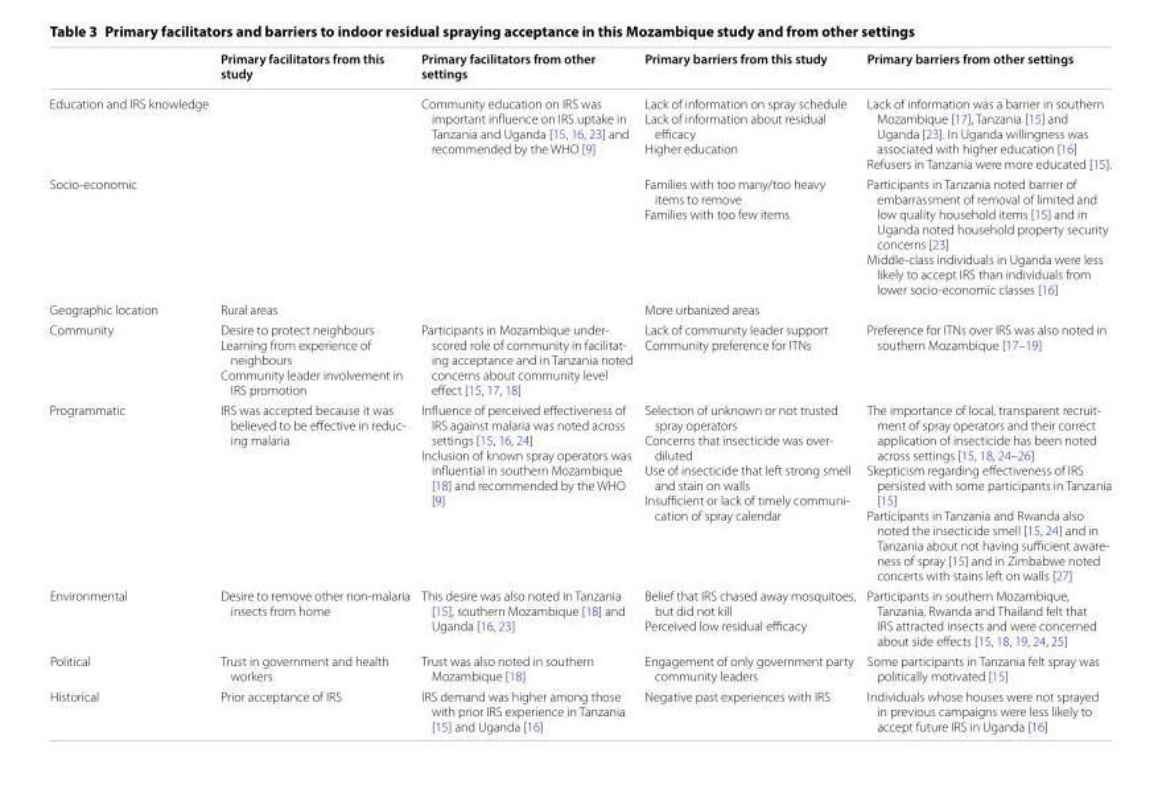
<table><thead><tr><td></td><td>Primary facilitators from this study</td><td>Primary facilitators from other settings</td><td>Primary barriers from this study</td><td>Primary barriers from other settings</td></tr></thead><tbody><tr><td>Education and IRS knowledge</td><td></td><td>Community education on IRS was important influence on IRS uptake in Tanzania and Uganda [15, 16, 23] and recommended by the WHO [9]</td><td>Lack of information on spray schedule Lack of information about residual efficacy Higher education</td><td>Lack of information was a barrier in southern Mozambique [17], Tanzania [15] and Uganda [23]. In Uganda willingness was associated with higher education [16] Refusers in Tanzania were more educated [15].</td></tr><tr><td>Socio-economic</td><td></td><td></td><td>Families with too many/too heavy items to remove Families with too few items</td><td>Participants in Tanzania noted barrier of embarrassment of removal of limited and low quality household items [15] and in Uganda noted household property security concerns [23] Middle-class individuals in Uganda were less likely to accept IRS than individuals from lower socio-economic classes [16]</td></tr><tr><td>Geographic location</td><td>Rural areas</td><td></td><td>More urbanized areas</td><td></td></tr><tr><td>Community</td><td>Desire to protect neighbours Learning from experience of neighbours Community leader involvement in IRS promotion</td><td>Participants in Mozambique under- scored role of community in facilitat- ing acceptance and in Tanzania noted concerns about community level effect [15, 17, 18]</td><td>Lack of community leader support Community preference for ITNs</td><td>Preference for ITNs over IRS was also noted in southern Mozambique [17–19]</td></tr><tr><td>Programmatic</td><td>IRS was accepted because it was believed to be effective in reduc- ing malaria</td><td>Influence of perceived effectiveness of IRS against malaria was noted across settings [15, 16, 24] Inclusion of known spray operators was influential in southern Mozambique [18] and recommended by the WHO [9]</td><td>Selection of unknown or not trusted spray operators Concerns that insecticide was over- diluted Use of insecticide that left strong smell and stain on walls Insufficient or lack of timely communi- cation of spray calendar</td><td>The importance of local, transparent recruit- ment of spray operators and their correct application of insecticide has been noted across settings [15, 18, 24–26] Skepticism regarding effectiveness of IRS persisted with some participants in Tanzania [15] Participants in Tanzania and Rwanda also noted the insecticide smell [15, 24] and in Tanzania about not having sufficient aware- ness of spray [15] and in Zimbabwe noted concerts with stains left on walls [27]</td></tr><tr><td>Environmental</td><td>Desire to remove other non-malaria insects from home</td><td>This desire was also noted in Tanzania [15], southern Mozambique [18] and Uganda [16, 23]</td><td>Belief that IRS chased away mosquitoes, but did not kill Perceived low residual efficacy</td><td>Participants in southern Mozambique, Tanzania, Rwanda and Thailand felt that IRS attracted insects and were concerned about side effects [15, 18, 19, 24, 25]</td></tr><tr><td>Political</td><td>Trust in government and health workers</td><td>Trust was also noted in southern Mozambique [18]</td><td>Engagement of only government party community leaders</td><td>Some participants in Tanzania felt spray was politically motivated [15]</td></tr><tr><td>Historical</td><td>Prior acceptance of IRS</td><td>IRS demand was higher among those with prior IRS experience in Tanzania [15] and Uganda [16]</td><td>Negative past experiences with IRS</td><td>Individuals whose houses were not sprayed in previous campaigns were less likely to accept future IRS in Uganda [16]</td></tr></tbody></table>